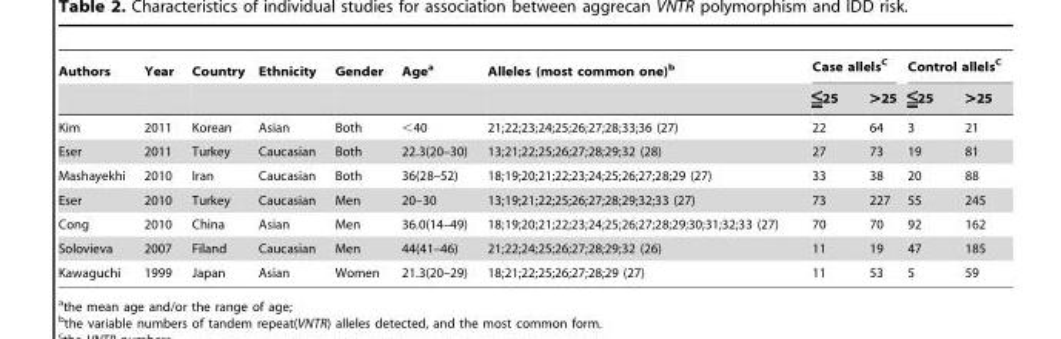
<table><thead><tr><td rowspan="2">Authors</td><td rowspan="2">Year</td><td rowspan="2">Country</td><td rowspan="2">Ethnicity</td><td rowspan="2">Gender</td><td rowspan="2">Age<sup>a</sup></td><td rowspan="2">Alleles (most common one)<sup>b</sup></td><td colspan="2">Case allels<sup>C</sup></td><td colspan="2">Control allels<sup>C</sup></td></tr><tr><td>25</td><td>&gt;25</td><td>25</td><td>&gt;25</td></tr></thead><tbody><tr><td>Kim</td><td>2011</td><td>Korean</td><td>Asian</td><td>Both</td><td>&lt;40</td><td>21;22;23;24;25;26;27;28;33;36 (27)</td><td>22</td><td>64</td><td>3</td><td>21</td></tr><tr><td>Eser</td><td>2011</td><td>Turkey</td><td>Caucasian</td><td>Both</td><td>22.3(20–30)</td><td>13;21;22;25;26;27;28;29;32 (28)</td><td>27</td><td>73</td><td>19</td><td>81</td></tr><tr><td>Mashayekhi</td><td>2010</td><td>Iran</td><td>Caucasian</td><td>Both</td><td>36(28–52)</td><td>18;19;20;21;22;23;24;25;26;27;28;29 (27)</td><td>33</td><td>38</td><td>20</td><td>88</td></tr><tr><td>Eser</td><td>2010</td><td>Turkey</td><td>Caucasian</td><td>Men</td><td>20–30</td><td>13;19;21;22;25;26;27;28;29;32;33 (27)</td><td>73</td><td>227</td><td>55</td><td>245</td></tr><tr><td>Cong</td><td>2010</td><td>China</td><td>Asian</td><td>Men</td><td>36.0(14–49)</td><td>18;19;20;21;22;23;24;25;26;27;28;29;30;31;32;33 (27)</td><td>70</td><td>70</td><td>92</td><td>162</td></tr><tr><td>Solovieva</td><td>2007</td><td>Filand</td><td>Caucasian</td><td>Men</td><td>44(41–46)</td><td>21;22;24;25;26;27;28;29;32 (26)</td><td>11</td><td>19</td><td>47</td><td>185</td></tr><tr><td>Kawaguchi</td><td>1999</td><td>Japan</td><td>Asian</td><td>Women</td><td>21.3(20–29)</td><td>18;21;22;25;26;27;28;29 (27)</td><td>11</td><td>53</td><td>5</td><td>59</td></tr></tbody></table>